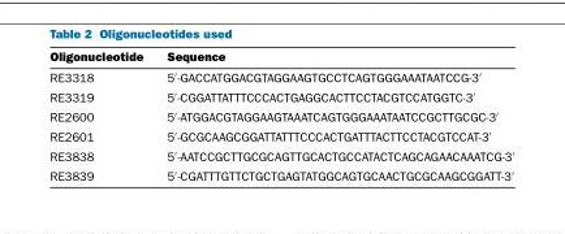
<table><thead><tr><td>Oligonucleotide</td><td>Sequence</td></tr></thead><tbody><tr><td>RE3318</td><td>5′-GACCATGGACGTAGGAAGTGCCTCAGTGGGAAATAATCCG-3′</td></tr><tr><td>RE3319</td><td>5′-CGGATTATTTCCCACTGAGGCACTTCCTACGTCCATGGTC-3′</td></tr><tr><td>RE2600</td><td>5′-ATGGACGTAGGAAGTAAATCAGTGGGAAATAATCCGCTTGCGC-3′</td></tr><tr><td>RE2601</td><td>5′-GCGCAAGCGGATTATTTCCCACTGATTTACTTCCTACGTCCAT-3′</td></tr><tr><td>RE3838</td><td>5′-AATCCGCTTGCGCAGTTGCACTGCCATACTCAGCAGAACAAATCG-3′</td></tr><tr><td>RE3839</td><td>5′-CGATTTGTTCTGCTGAGTATGGCAGTGCAACTGCGCAAGCGGATT-3′</td></tr></tbody></table>